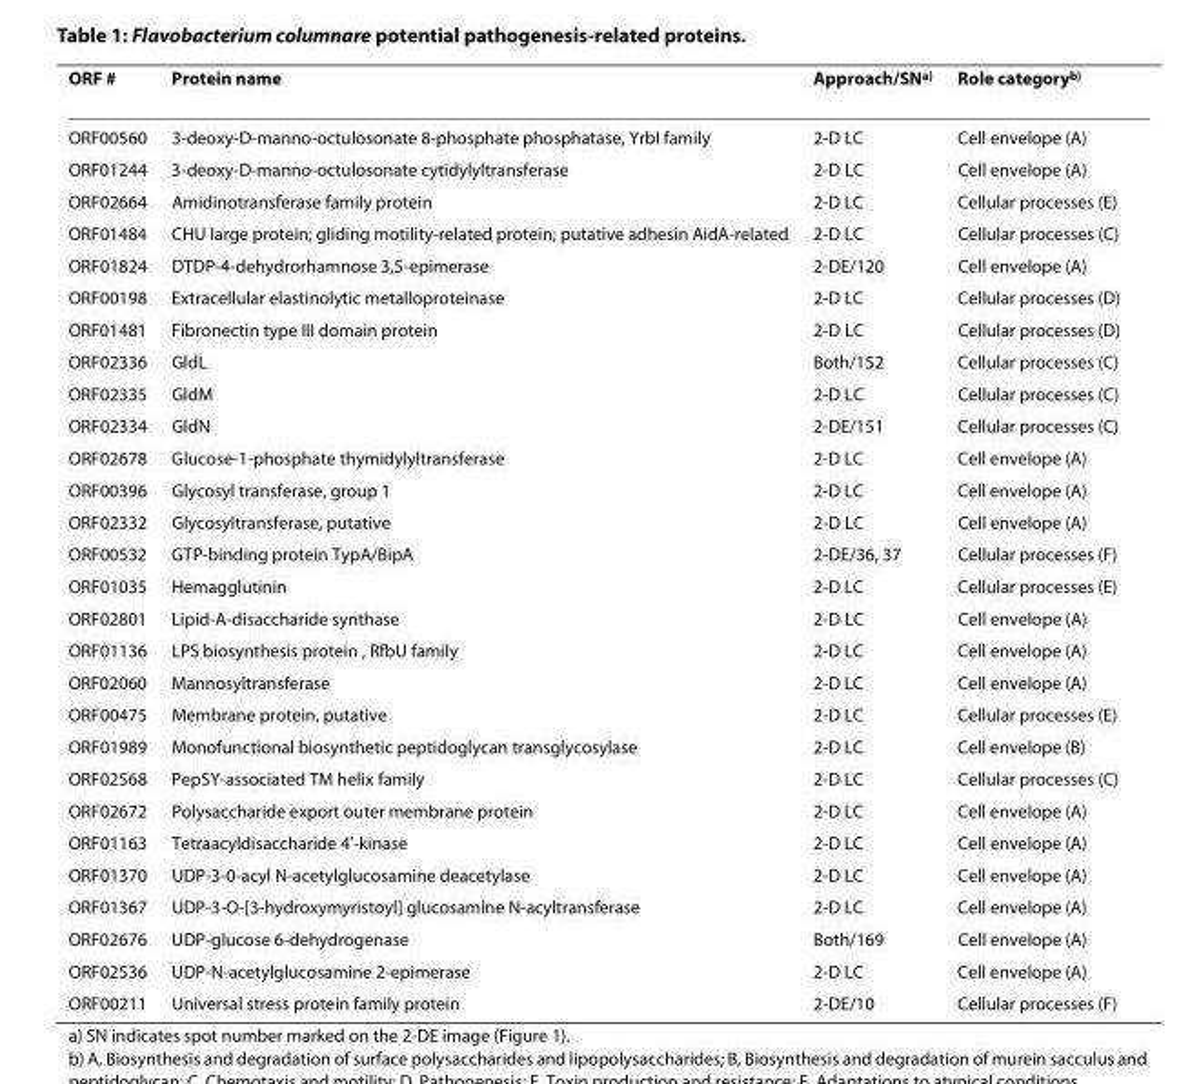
<table><thead><tr><td>ORF #</td><td>Protein name</td><td>Approach/SN<sup>a)</sup></td><td>Role category<sup>b)</sup></td></tr></thead><tbody><tr><td>ORF00560</td><td>3-deoxy-D-manno-octulosonate 8-phosphate phosphatase, YrbI family</td><td>2-D LC</td><td>Cell envelope (A)</td></tr><tr><td>ORF01244</td><td>3-deoxy-D-manno-octulosonate cytidylyltransferase</td><td>2-D LC</td><td>Cell envelope (A)</td></tr><tr><td>ORF02664</td><td>Amidinotransferase family protein</td><td>2-D LC</td><td>Cellular processes (E)</td></tr><tr><td>ORF01484</td><td>CHU large protein; gliding motility-related protein; putative adhesin AidA-related</td><td>2-D LC</td><td>Cellular processes (C)</td></tr><tr><td>ORF01824</td><td>DTDP-4-dehydrorhamnose 3,5-epimerase</td><td>2-DE/120</td><td>Cell envelope (A)</td></tr><tr><td>ORF00198</td><td>Extracellular elastinolytic metalloproteinase</td><td>2-D LC</td><td>Cellular processes (D)</td></tr><tr><td>ORF01481</td><td>Fibronectin type III domain protein</td><td>2-D LC</td><td>Cellular processes (D)</td></tr><tr><td>ORF02336</td><td>GldL</td><td>Both/152</td><td>Cellular processes (C)</td></tr><tr><td>ORF02335</td><td>GldM</td><td>2-D LC</td><td>Cellular processes (C)</td></tr><tr><td>ORF02334</td><td>GldN</td><td>2-DE/151</td><td>Cellular processes (C)</td></tr><tr><td>ORF02678</td><td>Glucose-1-phosphate thymidylyltransferase</td><td>2-D LC</td><td>Cell envelope (A)</td></tr><tr><td>ORF00396</td><td>Glycosyl transferase, group 1</td><td>2-D LC</td><td>Cell envelope (A)</td></tr><tr><td>ORF02332</td><td>Glycosyltransferase, putative</td><td>2-D LC</td><td>Cell envelope (A)</td></tr><tr><td>ORF00532</td><td>GTP-binding protein TypA/BipA</td><td>2-DE/36, 37</td><td>Cellular processes (F)</td></tr><tr><td>ORF01035</td><td>Hemagglutinin</td><td>2-D LC</td><td>Cellular processes (E)</td></tr><tr><td>ORF02801</td><td>Lipid-A-disaccharide synthase</td><td>2-D LC</td><td>Cell envelope (A)</td></tr><tr><td>ORF01136</td><td>LPS biosynthesis protein , RfbU family</td><td>2-D LC</td><td>Cell envelope (A)</td></tr><tr><td>ORF02060</td><td>Mannosyltransferase</td><td>2-D LC</td><td>Cell envelope (A)</td></tr><tr><td>ORF00475</td><td>Membrane protein, putative</td><td>2-D LC</td><td>Cellular processes (E)</td></tr><tr><td>ORF01989</td><td>Monofunctional biosynthetic peptidoglycan transglycosylase</td><td>2-D LC</td><td>Cell envelope (B)</td></tr><tr><td>ORF02568</td><td>PepSY-associated TM helix family</td><td>2-D LC</td><td>Cellular processes (C)</td></tr><tr><td>ORF02672</td><td>Polysaccharide export outer membrane protein</td><td>2-D LC</td><td>Cell envelope (A)</td></tr><tr><td>ORF01163</td><td>Tetraacyldisaccharide 4&#x27;-kinase</td><td>2-D LC</td><td>Cell envelope (A)</td></tr><tr><td>ORF01370</td><td>UDP-3-0-acyl N-acetylglucosamine deacetylase</td><td>2-D LC</td><td>Cell envelope (A)</td></tr><tr><td>ORF01367</td><td>UDP-3-O-[3-hydroxymyristoyl] glucosamine N-acyltransferase</td><td>2-D LC</td><td>Cell envelope (A)</td></tr><tr><td>ORF02676</td><td>UDP-glucose 6-dehydrogenase</td><td>Both/169</td><td>Cell envelope (A)</td></tr><tr><td>ORF02536</td><td>UDP-N-acetylglucosamine 2-epimerase</td><td>2-D LC</td><td>Cell envelope (A)</td></tr><tr><td>ORF00211</td><td>Universal stress protein family protein</td><td>2-DE/10</td><td>Cellular processes (F)</td></tr></tbody></table>